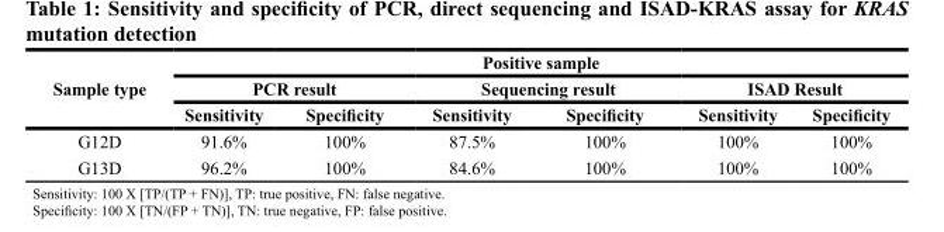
<table><thead><tr><td rowspan="3">Sample type</td><td colspan="6">Positive sample</td></tr><tr><td colspan="2">PCR result</td><td colspan="2">Sequencing result</td><td colspan="2">ISAD Result</td></tr><tr><td>Sensitivity</td><td>Specificity</td><td>Sensitivity</td><td>Specificity</td><td>Sensitivity</td><td>Specificity</td></tr></thead><tbody><tr><td>G12D</td><td>91.6%</td><td>100%</td><td>87.5%</td><td>100%</td><td>100%</td><td>100%</td></tr><tr><td>G13D</td><td>96.2%</td><td>100%</td><td>84.6%</td><td>100%</td><td>100%</td><td>100%</td></tr></tbody></table>